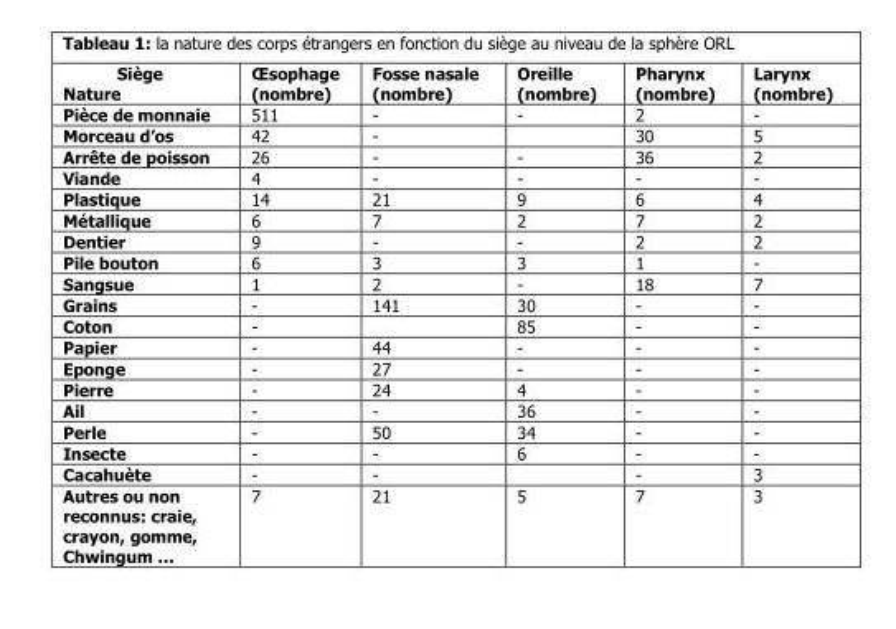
<table><thead><tr><td>Siège Nature</td><td>Œsophage (nombre)</td><td>Fosse nasale (nombre)</td><td>Oreille (nombre)</td><td>Pharynx (nombre)</td><td>Larynx (nombre)</td></tr></thead><tbody><tr><td>Pièce de monnaie</td><td>511</td><td>-</td><td>-</td><td>2</td><td>-</td></tr><tr><td>Morceau d’os</td><td>42</td><td>-</td><td></td><td>30</td><td>5</td></tr><tr><td>Arrête de poisson</td><td>26</td><td>-</td><td>-</td><td>36</td><td>2</td></tr><tr><td>Viande</td><td>4</td><td>-</td><td>-</td><td>-</td><td>-</td></tr><tr><td>Plastique</td><td>14</td><td>21</td><td>9</td><td>6</td><td>4</td></tr><tr><td>Métallique</td><td>6</td><td>7</td><td>2</td><td>7</td><td>2</td></tr><tr><td>Dentier</td><td>9</td><td>-</td><td>-</td><td>2</td><td>2</td></tr><tr><td>Pile bouton</td><td>6</td><td>3</td><td>3</td><td>1</td><td>-</td></tr><tr><td>Sangsue</td><td>1</td><td>2</td><td>-</td><td>18</td><td>7</td></tr><tr><td>Grains</td><td>-</td><td>141</td><td>30</td><td>-</td><td>-</td></tr><tr><td>Coton</td><td>-</td><td></td><td>85</td><td>-</td><td>-</td></tr><tr><td>Papier</td><td>-</td><td>44</td><td>-</td><td>-</td><td>-</td></tr><tr><td>Eponge</td><td>-</td><td>27</td><td>-</td><td>-</td><td>-</td></tr><tr><td>Pierre</td><td>-</td><td>24</td><td>4</td><td>-</td><td>-</td></tr><tr><td>Ail</td><td>-</td><td>-</td><td>36</td><td>-</td><td>-</td></tr><tr><td>Perle</td><td>-</td><td>50</td><td>34</td><td>-</td><td>-</td></tr><tr><td>Insecte</td><td>-</td><td>-</td><td>6</td><td>-</td><td>-</td></tr><tr><td>Cacahuète</td><td>-</td><td>-</td><td></td><td>-</td><td>3</td></tr><tr><td>Autres ou non reconnus: craie, crayon, gomme, Chwingum …</td><td>7</td><td>21</td><td>5</td><td>7</td><td>3</td></tr></tbody></table>